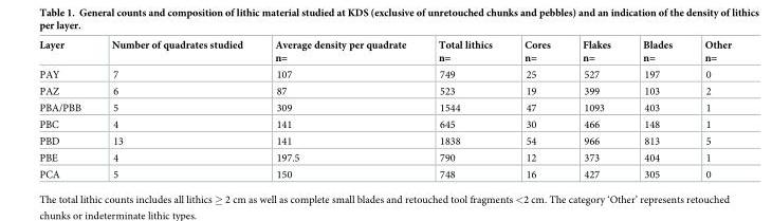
<table><thead><tr><td>Layer</td><td>Number of quadrates studied</td><td>Average density per quadrate n=</td><td>Total lithics n=</td><td>Cores n=</td><td>Flakes n=</td><td>Blades n=</td><td>Other n=</td></tr></thead><tbody><tr><td>PAY</td><td>7</td><td>107</td><td>749</td><td>25</td><td>527</td><td>197</td><td>0</td></tr><tr><td>PAZ</td><td>6</td><td>87</td><td>523</td><td>19</td><td>399</td><td>103</td><td>2</td></tr><tr><td>PBA/PBB</td><td>5</td><td>309</td><td>1544</td><td>47</td><td>1093</td><td>403</td><td>1</td></tr><tr><td>PBC</td><td>4</td><td>141</td><td>645</td><td>30</td><td>466</td><td>148</td><td>1</td></tr><tr><td>PBD</td><td>13</td><td>141</td><td>1838</td><td>54</td><td>966</td><td>813</td><td>5</td></tr><tr><td>PBE</td><td>4</td><td>197.5</td><td>790</td><td>12</td><td>373</td><td>404</td><td>1</td></tr><tr><td>PCA</td><td>5</td><td>150</td><td>748</td><td>16</td><td>427</td><td>305</td><td>0</td></tr></tbody></table>